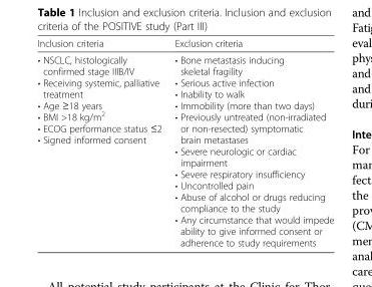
<table><thead><tr><td>Inclusion criteria</td><td>Exclusion criteria</td></tr></thead><tbody><tr><td>• NSCLC, histologically confirmed stage IIIB/IV • Receiving systemic, palliative treatment • Age ≥18 years • BMI &gt;18 kg/m<sup>2</sup> • ECOG performance status ≤2 • Signed informed consent</td><td>• Bone metastasis inducing skeletal fragility • Serious active infection • Inability to walk • Immobility (more than two days) • Previously untreated (non-irradiated or non-resected) symptomatic brain metastases • Severe neurologic or cardiac impairment • Severe respiratory insufficiency • Uncontrolled pain • Abuse of alcohol or drugs reducing compliance to the study • Any circumstance that would impede ability to give informed consent or adherence to study requirements</td></tr></tbody></table>